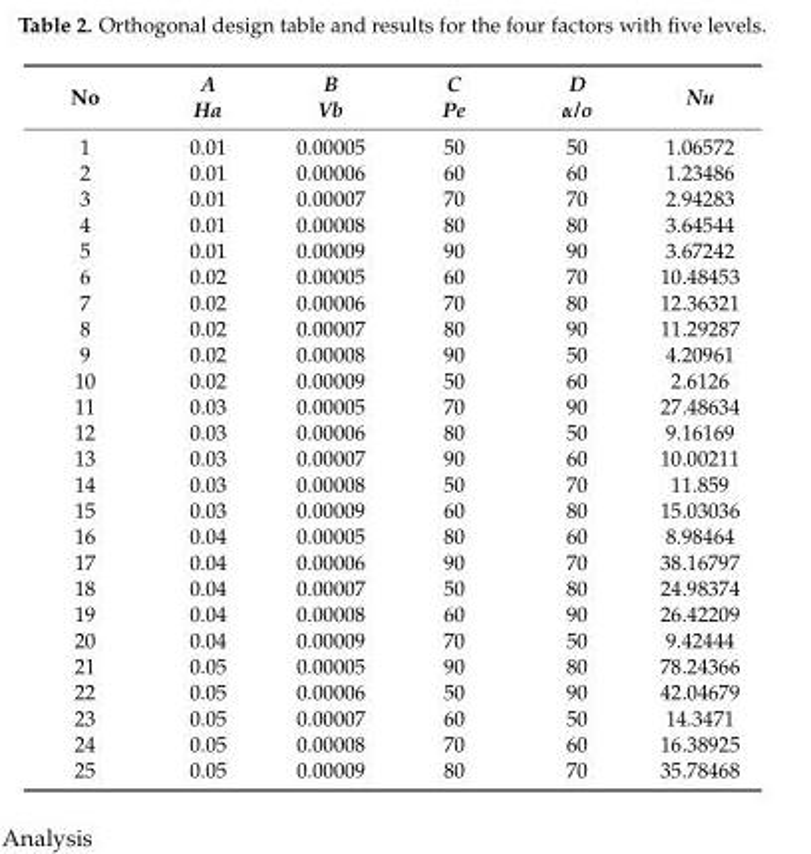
<table><thead><tr><td>No</td><td>A Ha</td><td>B Vb</td><td>C Pe</td><td>D α/o</td><td>Nu</td></tr></thead><tbody><tr><td>1</td><td>0.01</td><td>0.00005</td><td>50</td><td>50</td><td>1.06572</td></tr><tr><td>2</td><td>0.01</td><td>0.00006</td><td>60</td><td>60</td><td>1.23486</td></tr><tr><td>3</td><td>0.01</td><td>0.00007</td><td>70</td><td>70</td><td>2.94283</td></tr><tr><td>4</td><td>0.01</td><td>0.00008</td><td>80</td><td>80</td><td>3.64544</td></tr><tr><td>5</td><td>0.01</td><td>0.00009</td><td>90</td><td>90</td><td>3.67242</td></tr><tr><td>6</td><td>0.02</td><td>0.00005</td><td>60</td><td>70</td><td>10.48453</td></tr><tr><td>7</td><td>0.02</td><td>0.00006</td><td>70</td><td>80</td><td>12.36321</td></tr><tr><td>8</td><td>0.02</td><td>0.00007</td><td>80</td><td>90</td><td>11.29287</td></tr><tr><td>9</td><td>0.02</td><td>0.00008</td><td>90</td><td>50</td><td>4.20961</td></tr><tr><td>10</td><td>0.02</td><td>0.00009</td><td>50</td><td>60</td><td>2.6126</td></tr><tr><td>11</td><td>0.03</td><td>0.00005</td><td>70</td><td>90</td><td>27.48634</td></tr><tr><td>12</td><td>0.03</td><td>0.00006</td><td>80</td><td>50</td><td>9.16169</td></tr><tr><td>13</td><td>0.03</td><td>0.00007</td><td>90</td><td>60</td><td>10.00211</td></tr><tr><td>14</td><td>0.03</td><td>0.00008</td><td>50</td><td>70</td><td>11.859</td></tr><tr><td>15</td><td>0.03</td><td>0.00009</td><td>60</td><td>80</td><td>15.03036</td></tr><tr><td>16</td><td>0.04</td><td>0.00005</td><td>80</td><td>60</td><td>8.98464</td></tr><tr><td>17</td><td>0.04</td><td>0.00006</td><td>90</td><td>70</td><td>38.16797</td></tr><tr><td>18</td><td>0.04</td><td>0.00007</td><td>50</td><td>80</td><td>24.98374</td></tr><tr><td>19</td><td>0.04</td><td>0.00008</td><td>60</td><td>90</td><td>26.42209</td></tr><tr><td>20</td><td>0.04</td><td>0.00009</td><td>70</td><td>50</td><td>9.42444</td></tr><tr><td>21</td><td>0.05</td><td>0.00005</td><td>90</td><td>80</td><td>78.24366</td></tr><tr><td>22</td><td>0.05</td><td>0.00006</td><td>50</td><td>90</td><td>42.04679</td></tr><tr><td>23</td><td>0.05</td><td>0.00007</td><td>60</td><td>50</td><td>14.3471</td></tr><tr><td>24</td><td>0.05</td><td>0.00008</td><td>70</td><td>60</td><td>16.38925</td></tr><tr><td>25</td><td>0.05</td><td>0.00009</td><td>80</td><td>70</td><td>35.78468</td></tr></tbody></table>